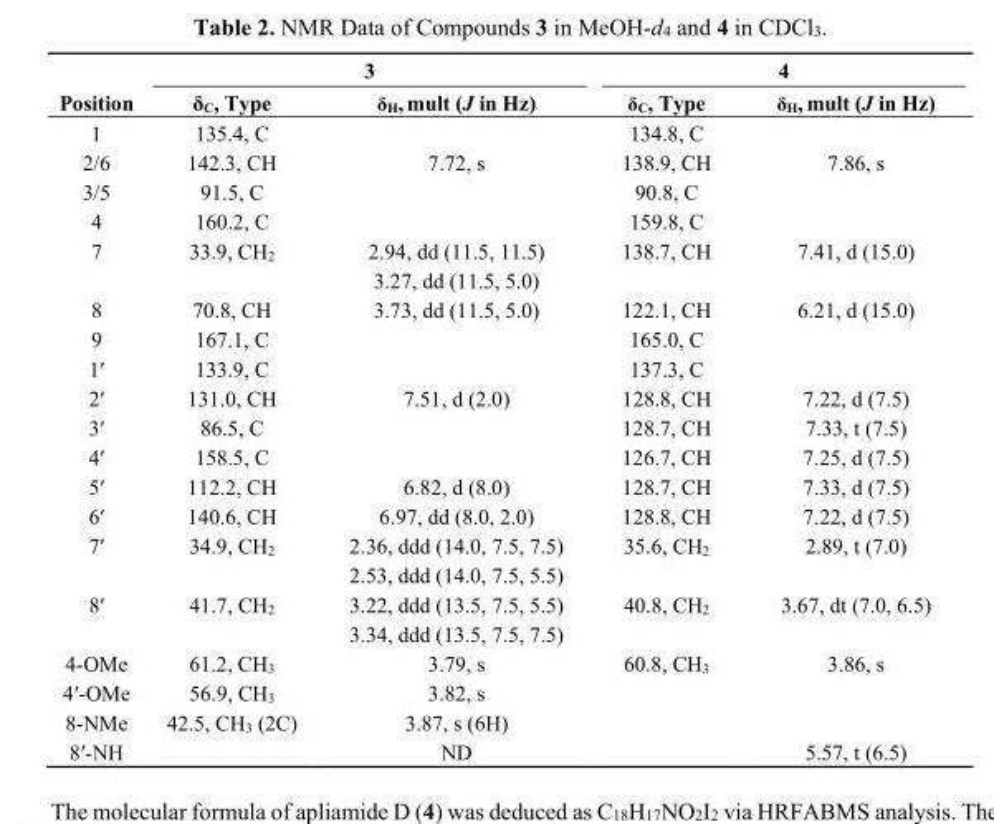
<table><thead><tr><td rowspan="2">Position</td><td colspan="2">3</td><td colspan="2">4</td></tr><tr><td>δ<sub>C</sub>, Type</td><td>δ<sub>H</sub>, mult (J in Hz)</td><td>δ<sub>C</sub>, Type</td><td>δ<sub>H</sub>, mult (J in Hz)</td></tr></thead><tbody><tr><td>1</td><td>135.4, C</td><td></td><td>134.8, C</td><td></td></tr><tr><td>2/6</td><td>142.3, CH</td><td>7.72, s</td><td>138.9, CH</td><td>7.86, s</td></tr><tr><td>3/5</td><td>91.5, C</td><td></td><td>90.8, C</td><td></td></tr><tr><td>4</td><td>160.2, C</td><td></td><td>159.8, C</td><td></td></tr><tr><td rowspan="2">7</td><td>33.9, CH<sub>2</sub></td><td>2.94, dd (11.5, 11.5)</td><td>138.7, CH</td><td>7.41, d (15.0)</td></tr><tr><td></td><td>3.27, dd (11.5, 5.0)</td><td></td><td></td></tr><tr><td>8</td><td>70.8, CH</td><td>3.73, dd (11.5, 5.0)</td><td>122.1, CH</td><td>6.21, d (15.0)</td></tr><tr><td>9</td><td>167.1, C</td><td></td><td>165.0, C</td><td></td></tr><tr><td>1′</td><td>133.9, C</td><td></td><td>137.3, C</td><td></td></tr><tr><td>2′</td><td>131.0, CH</td><td>7.51, d (2.0)</td><td>128.8, CH</td><td>7.22, d (7.5)</td></tr><tr><td>3′</td><td>86.5, C</td><td></td><td>128.7, CH</td><td>7.33, t (7.5)</td></tr><tr><td>4′</td><td>158.5, C</td><td></td><td>126.7, CH</td><td>7.25, d (7.5)</td></tr><tr><td>5′</td><td>112.2, CH</td><td>6.82, d (8.0)</td><td>128.7, CH</td><td>7.33, d (7.5)</td></tr><tr><td>6′</td><td>140.6, CH</td><td>6.97, dd (8.0, 2.0)</td><td>128.8, CH</td><td>7.22, d (7.5)</td></tr><tr><td rowspan="2">7′</td><td>34.9, CH<sub>2</sub></td><td>2.36, ddd (14.0, 7.5, 7.5)</td><td>35.6, CH<sub>2</sub></td><td>2.89, t (7.0)</td></tr><tr><td></td><td>2.53, ddd (14.0, 7.5, 5.5)</td><td></td><td></td></tr><tr><td rowspan="2">8′</td><td>41.7, CH<sub>2</sub></td><td>3.22, ddd (13.5, 7.5, 5.5)</td><td>40.8, CH<sub>2</sub></td><td>3.67, dt (7.0, 6.5)</td></tr><tr><td></td><td>3.34, ddd (13.5, 7.5, 7.5)</td><td></td><td></td></tr><tr><td>4-OMe</td><td>61.2, CH<sub>3</sub></td><td>3.79, s</td><td>60.8, CH<sub>3</sub></td><td>3.86, s</td></tr><tr><td>4′-OMe</td><td>56.9, CH<sub>3</sub></td><td>3.82, s</td><td></td><td></td></tr><tr><td>8-NMe</td><td>42.5, CH<sub>3</sub> (2C)</td><td>3.87, s (6H)</td><td></td><td></td></tr><tr><td>8′-NH</td><td></td><td>ND</td><td></td><td>5.57, t (6.5)</td></tr></tbody></table>